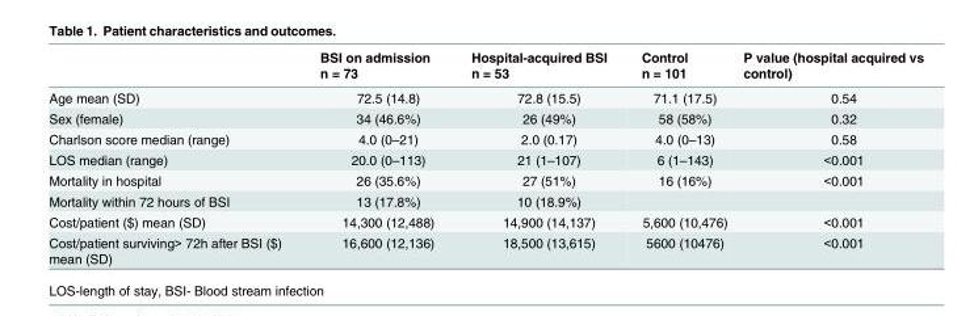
<table><thead><tr><td></td><td>BSI on admission n = 73</td><td>Hospital-acquired BSI n = 53</td><td>Control n = 101</td><td>P value (hospital acquired vs control)</td></tr></thead><tbody><tr><td>Age mean (SD)</td><td>72.5 (14.8)</td><td>72.8 (15.5)</td><td>71.1 (17.5)</td><td>0.54</td></tr><tr><td>Sex (female)</td><td>34 (46.6%)</td><td>26 (49%)</td><td>58 (58%)</td><td>0.32</td></tr><tr><td>Charlson score median (range)</td><td>4.0 (0–21)</td><td>2.0 (0.17)</td><td>4.0 (0–13)</td><td>0.58</td></tr><tr><td>LOS median (range)</td><td>20.0 (0–113)</td><td>21 (1–107)</td><td>6 (1–143)</td><td>&lt;0.001</td></tr><tr><td>Mortality in hospital</td><td>26 (35.6%)</td><td>27 (51%)</td><td>16 (16%)</td><td>&lt;0.001</td></tr><tr><td>Mortality within 72 hours of BSI</td><td>13 (17.8%)</td><td>10 (18.9%)</td><td></td><td></td></tr><tr><td>Cost/patient ($) mean (SD)</td><td>14,300 (12,488)</td><td>14,900 (14,137)</td><td>5,600 (10,476)</td><td>&lt;0.001</td></tr><tr><td>Cost/patient surviving&gt; 72h after BSI ($) mean (SD)</td><td>16,600 (12,136)</td><td>18,500 (13,615)</td><td>5600 (10476)</td><td>&lt;0.001</td></tr></tbody></table>